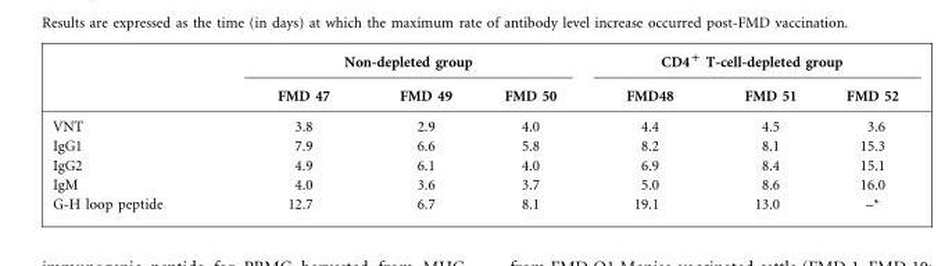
<table><thead><tr><td rowspan="2"></td><td colspan="3">Non-depleted group</td><td colspan="3">CD4<sup>+</sup> T-cell-depleted group</td></tr><tr><td>FMD 47</td><td>FMD 49</td><td>FMD 50</td><td>FMD48</td><td>FMD 51</td><td>FMD 52</td></tr></thead><tbody><tr><td>VNT</td><td>3.8</td><td>2.9</td><td>4.0</td><td>4.4</td><td>4.5</td><td>3.6</td></tr><tr><td>IgG1</td><td>7.9</td><td>6.6</td><td>5.8</td><td>8.2</td><td>8.1</td><td>15.3</td></tr><tr><td>IgG2</td><td>4.9</td><td>6.1</td><td>4.0</td><td>6.9</td><td>8.4</td><td>15.1</td></tr><tr><td>IgM</td><td>4.0</td><td>3.6</td><td>3.7</td><td>5.0</td><td>8.6</td><td>16.0</td></tr><tr><td>G-H loop peptide</td><td>12.7</td><td>6.7</td><td>8.1</td><td>19.1</td><td>13.0</td><td>–*</td></tr></tbody></table>